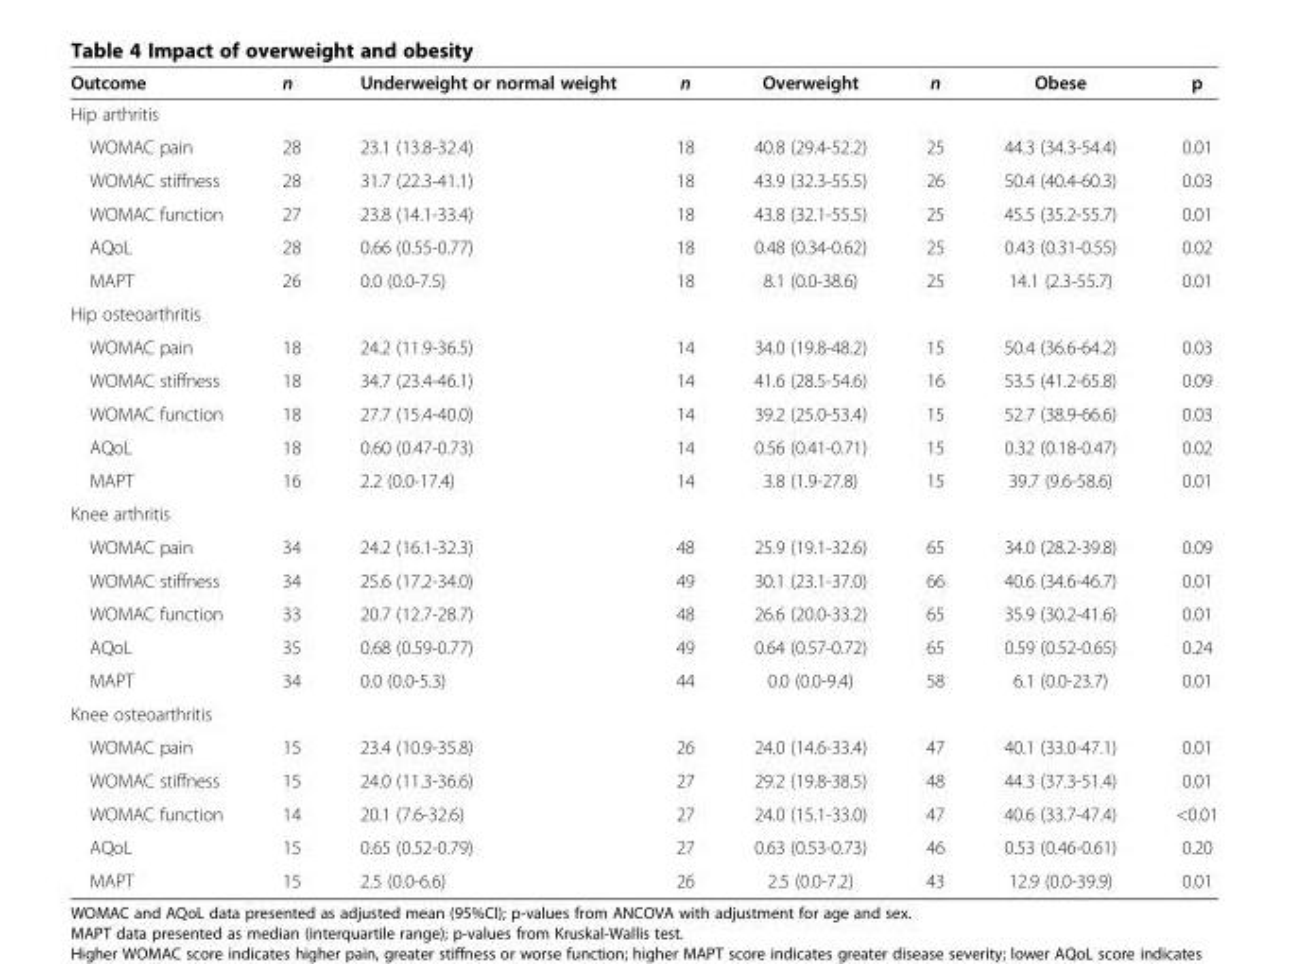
<table><thead><tr><td>Outcome</td><td>n</td><td>Underweight or normal weight</td><td>n</td><td>Overweight</td><td>n</td><td>Obese</td><td>p</td></tr></thead><tbody><tr><td colspan="8">Hip arthritis</td></tr><tr><td>WOMAC pain</td><td>28</td><td>23.1 (13.8-32.4)</td><td>18</td><td>40.8 (29.4-52.2)</td><td>25</td><td>44.3 (34.3-54.4)</td><td>0.01</td></tr><tr><td>WOMAC stiffness</td><td>28</td><td>31.7 (22.3-41.1)</td><td>18</td><td>43.9 (32.3-55.5)</td><td>26</td><td>50.4 (40.4-60.3)</td><td>0.03</td></tr><tr><td>WOMAC function</td><td>27</td><td>23.8 (14.1-33.4)</td><td>18</td><td>43.8 (32.1-55.5)</td><td>25</td><td>45.5 (35.2-55.7)</td><td>0.01</td></tr><tr><td>AQoL</td><td>28</td><td>0.66 (0.55-0.77)</td><td>18</td><td>0.48 (0.34-0.62)</td><td>25</td><td>0.43 (0.31-0.55)</td><td>0.02</td></tr><tr><td>MAPT</td><td>26</td><td>0.0 (0.0-7.5)</td><td>18</td><td>8.1 (0.0-38.6)</td><td>25</td><td>14.1 (2.3-55.7)</td><td>0.01</td></tr><tr><td colspan="8">Hip osteoarthritis</td></tr><tr><td>WOMAC pain</td><td>18</td><td>24.2 (11.9-36.5)</td><td>14</td><td>34.0 (19.8-48.2)</td><td>15</td><td>50.4 (36.6-64.2)</td><td>0.03</td></tr><tr><td>WOMAC stiffness</td><td>18</td><td>34.7 (23.4-46.1)</td><td>14</td><td>41.6 (28.5-54.6)</td><td>16</td><td>53.5 (41.2-65.8)</td><td>0.09</td></tr><tr><td>WOMAC function</td><td>18</td><td>27.7 (15.4-40.0)</td><td>14</td><td>39.2 (25.0-53.4)</td><td>15</td><td>52.7 (38.9-66.6)</td><td>0.03</td></tr><tr><td>AQoL</td><td>18</td><td>0.60 (0.47-0.73)</td><td>14</td><td>0.56 (0.41-0.71)</td><td>15</td><td>0.32 (0.18-0.47)</td><td>0.02</td></tr><tr><td>MAPT</td><td>16</td><td>2.2 (0.0-17.4)</td><td>14</td><td>3.8 (1.9-27.8)</td><td>15</td><td>39.7 (9.6-58.6)</td><td>0.01</td></tr><tr><td colspan="8">Knee arthritis</td></tr><tr><td>WOMAC pain</td><td>34</td><td>24.2 (16.1-32.3)</td><td>48</td><td>25.9 (19.1-32.6)</td><td>65</td><td>34.0 (28.2-39.8)</td><td>0.09</td></tr><tr><td>WOMAC stiffness</td><td>34</td><td>25.6 (17.2-34.0)</td><td>49</td><td>30.1 (23.1-37.0)</td><td>66</td><td>40.6 (34.6-46.7)</td><td>0.01</td></tr><tr><td>WOMAC function</td><td>33</td><td>20.7 (12.7-28.7)</td><td>48</td><td>26.6 (20.0-33.2)</td><td>65</td><td>35.9 (30.2-41.6)</td><td>0.01</td></tr><tr><td>AQoL</td><td>35</td><td>0.68 (0.59-0.77)</td><td>49</td><td>0.64 (0.57-0.72)</td><td>65</td><td>0.59 (0.52-0.65)</td><td>0.24</td></tr><tr><td>MAPT</td><td>34</td><td>0.0 (0.0-5.3)</td><td>44</td><td>0.0 (0.0-9.4)</td><td>58</td><td>6.1 (0.0-23.7)</td><td>0.01</td></tr><tr><td colspan="8">Knee osteoarthritis</td></tr><tr><td>WOMAC pain</td><td>15</td><td>23.4 (10.9-35.8)</td><td>26</td><td>24.0 (14.6-33.4)</td><td>47</td><td>40.1 (33.0-47.1)</td><td>0.01</td></tr><tr><td>WOMAC stiffness</td><td>15</td><td>24.0 (11.3-36.6)</td><td>27</td><td>29.2 (19.8-38.5)</td><td>48</td><td>44.3 (37.3-51.4)</td><td>0.01</td></tr><tr><td>WOMAC function</td><td>14</td><td>20.1 (7.6-32.6)</td><td>27</td><td>24.0 (15.1-33.0)</td><td>47</td><td>40.6 (33.7-47.4)</td><td>&lt;0.01</td></tr><tr><td>AQoL</td><td>15</td><td>0.65 (0.52-0.79)</td><td>27</td><td>0.63 (0.53-0.73)</td><td>46</td><td>0.53 (0.46-0.61)</td><td>0.20</td></tr><tr><td>MAPT</td><td>15</td><td>2.5 (0.0-6.6)</td><td>26</td><td>2.5 (0.0-7.2)</td><td>43</td><td>12.9 (0.0-39.9)</td><td>0.01</td></tr></tbody></table>